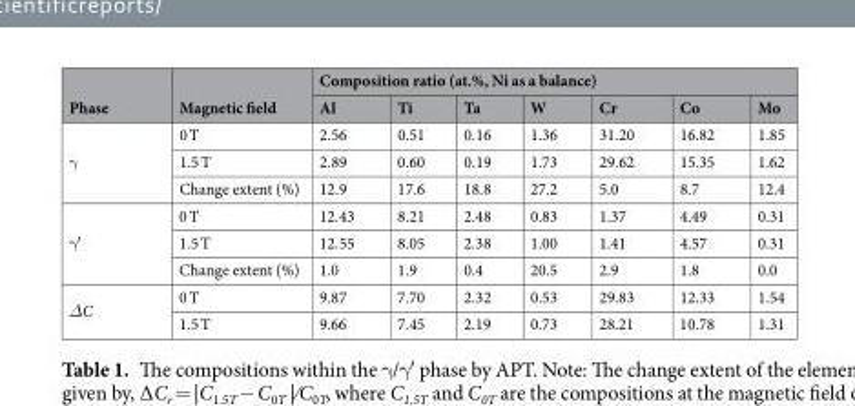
<table><thead><tr><td rowspan="2">Phase</td><td rowspan="2">Magnetic field</td><td colspan="7">Composition ratio (at.%, Ni as a balance)</td></tr><tr><td>Al</td><td>Ti</td><td>Ta</td><td>W</td><td>Cr</td><td>Co</td><td>Mo</td></tr></thead><tbody><tr><td rowspan="3">γ</td><td>0 T</td><td>2.56</td><td>0.51</td><td>0.16</td><td>1.36</td><td>31.20</td><td>16.82</td><td>1.85</td></tr><tr><td>1.5 T</td><td>2.89</td><td>0.60</td><td>0.19</td><td>1.73</td><td>29.62</td><td>15.35</td><td>1.62</td></tr><tr><td>Change extent (%)</td><td>12.9</td><td>17.6</td><td>18.8</td><td>27.2</td><td>5.0</td><td>8.7</td><td>12.4</td></tr><tr><td rowspan="3">γ′</td><td>0 T</td><td>12.43</td><td>8.21</td><td>2.48</td><td>0.83</td><td>1.37</td><td>4.49</td><td>0.31</td></tr><tr><td>1.5 T</td><td>12.55</td><td>8.05</td><td>2.38</td><td>1.00</td><td>1.41</td><td>4.57</td><td>0.31</td></tr><tr><td>Change extent (%)</td><td>1.0</td><td>1.9</td><td>0.4</td><td>20.5</td><td>2.9</td><td>1.8</td><td>0.0</td></tr><tr><td rowspan="2">ΔC</td><td>0 T</td><td>9.87</td><td>7.70</td><td>2.32</td><td>0.53</td><td>29.83</td><td>12.33</td><td>1.54</td></tr><tr><td>1.5 T</td><td>9.66</td><td>7.45</td><td>2.19</td><td>0.73</td><td>28.21</td><td>10.78</td><td>1.31</td></tr></tbody></table>